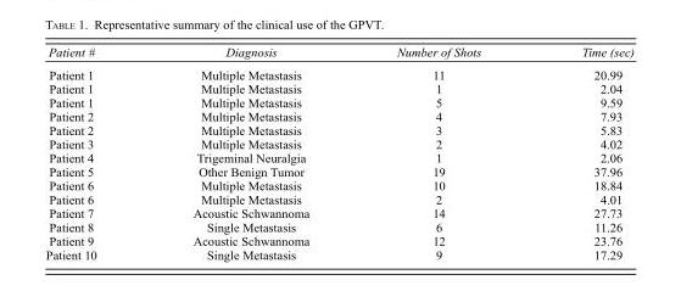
<table><thead><tr><td>Patient #</td><td>Diagnosis</td><td>Number of Shots</td><td>Time (sec)</td></tr></thead><tbody><tr><td>Patient 1</td><td>Multiple Metastasis</td><td>11</td><td>20.99</td></tr><tr><td>Patient 1</td><td>Multiple Metastasis</td><td>1</td><td>2.04</td></tr><tr><td>Patient 1</td><td>Multiple Metastasis</td><td>5</td><td>9.59</td></tr><tr><td>Patient 2</td><td>Multiple Metastasis</td><td>4</td><td>7.93</td></tr><tr><td>Patient 2</td><td>Multiple Metastasis</td><td>3</td><td>5.83</td></tr><tr><td>Patient 3</td><td>Multiple Metastasis</td><td>2</td><td>4.02</td></tr><tr><td>Patient 4</td><td>Trigeminal Neuralgia</td><td>1</td><td>2.06</td></tr><tr><td>Patient 5</td><td>Other Benign Tumor</td><td>19</td><td>37.96</td></tr><tr><td>Patient 6</td><td>Multiple Metastasis</td><td>10</td><td>18.84</td></tr><tr><td>Patient 6</td><td>Multiple Metastasis</td><td>2</td><td>4.01</td></tr><tr><td>Patient 7</td><td>Acoustic Schwannoma</td><td>14</td><td>27.73</td></tr><tr><td>Patient 8</td><td>Single Metastasis</td><td>6</td><td>11.26</td></tr><tr><td>Patient 9</td><td>Acoustic Schwannoma</td><td>12</td><td>23.76</td></tr><tr><td>Patient 10</td><td>Single Metastasis</td><td>9</td><td>17.29</td></tr></tbody></table>